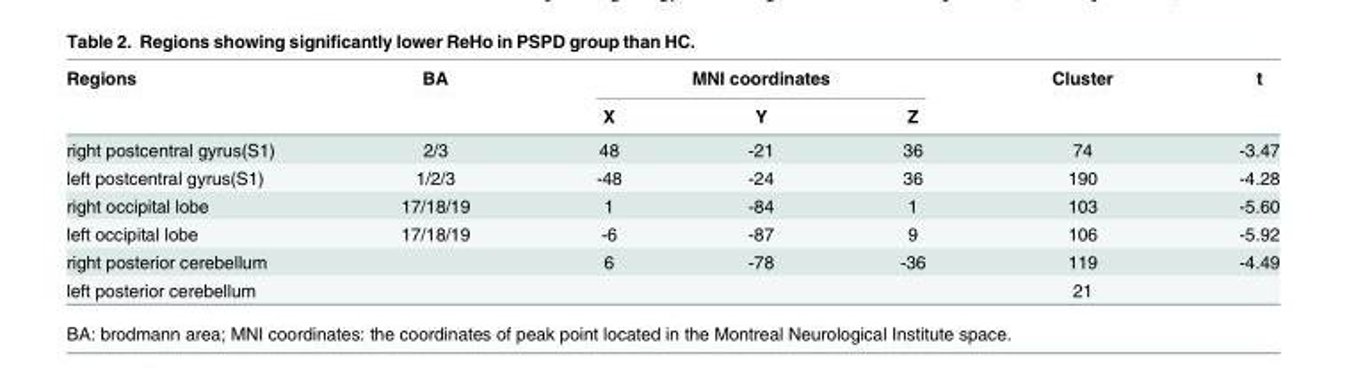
<table><thead><tr><td rowspan="2">Regions</td><td rowspan="2">BA</td><td colspan="3">MNI coordinates</td><td rowspan="2">Cluster</td><td rowspan="2">t</td></tr><tr><td>X</td><td>Y</td><td>Z</td></tr></thead><tbody><tr><td>right postcentral gyrus(S1)</td><td>2/3</td><td>48</td><td>-21</td><td>36</td><td>74</td><td>-3.47</td></tr><tr><td>left postcentral gyrus(S1)</td><td>1/2/3</td><td>-48</td><td>-24</td><td>36</td><td>190</td><td>-4.28</td></tr><tr><td>right occipital lobe</td><td>17/18/19</td><td>1</td><td>-84</td><td>1</td><td>103</td><td>-5.60</td></tr><tr><td>left occipital lobe</td><td>17/18/19</td><td>-6</td><td>-87</td><td>9</td><td>106</td><td>-5.92</td></tr><tr><td>right posterior cerebellum</td><td></td><td>6</td><td>-78</td><td>-36</td><td>119</td><td>-4.49</td></tr><tr><td>left posterior cerebellum</td><td></td><td></td><td></td><td></td><td>21</td><td></td></tr></tbody></table>